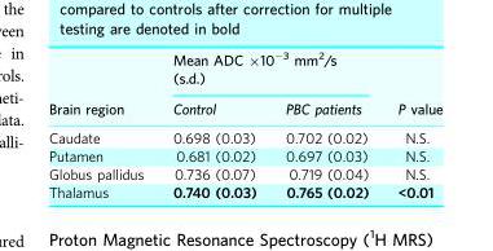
<table><thead><tr><td rowspan="2">Brain region</td><td colspan="2">Mean ADC ×10<sup>−3</sup> mm<sup>2</sup>/s (s.d.)</td><td rowspan="2">P value</td></tr><tr><td>Control</td><td>PBC patients</td></tr></thead><tbody><tr><td>Caudate</td><td>0.698 (0.03)</td><td>0.702 (0.02)</td><td>N.S.</td></tr><tr><td>Putamen</td><td>0.681 (0.02)</td><td>0.697 (0.03)</td><td>N.S.</td></tr><tr><td>Globus pallidus</td><td>0.736 (0.07)</td><td>0.719 (0.04)</td><td>N.S.</td></tr><tr><td>Thalamus</td><td>0.740 (0.03)</td><td>0.765 (0.02)</td><td>&lt;0.01</td></tr></tbody></table>